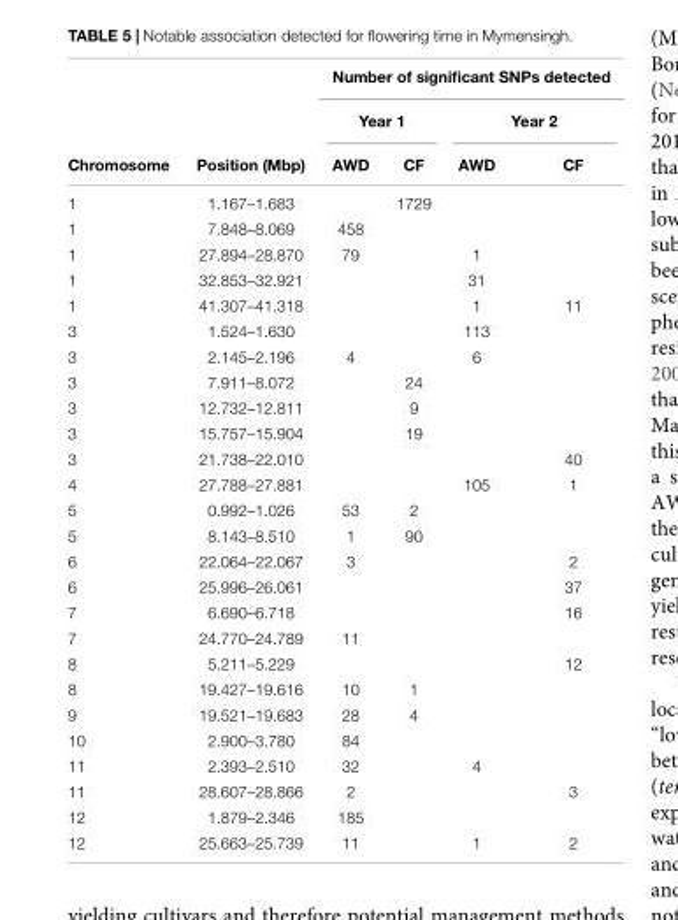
<table><thead><tr><td rowspan="3">Chromosome</td><td rowspan="3">Position (Mbp)</td><td colspan="4">Number of significant SNPs detected</td></tr><tr><td colspan="2">Year 1</td><td colspan="2">Year 2</td></tr><tr><td>AWD</td><td>CF</td><td>AWD</td><td>CF</td></tr></thead><tbody><tr><td>1</td><td>1.167–1.683</td><td></td><td>1729</td><td></td><td></td></tr><tr><td>1</td><td>7.848–8.069</td><td>458</td><td></td><td></td><td></td></tr><tr><td>1</td><td>27.894–28.870</td><td>79</td><td></td><td>1</td><td></td></tr><tr><td>1</td><td>32.853–32.921</td><td></td><td></td><td>31</td><td></td></tr><tr><td>1</td><td>41.307–41.318</td><td></td><td></td><td>1</td><td>11</td></tr><tr><td>3</td><td>1.524–1.630</td><td></td><td></td><td>113</td><td></td></tr><tr><td>3</td><td>2.145–2.196</td><td>4</td><td></td><td>6</td><td></td></tr><tr><td>3</td><td>7.911–8.072</td><td></td><td>24</td><td></td><td></td></tr><tr><td>3</td><td>12.732–12.811</td><td></td><td>9</td><td></td><td></td></tr><tr><td>3</td><td>15.757–15.904</td><td></td><td>19</td><td></td><td></td></tr><tr><td>3</td><td>21.738–22.010</td><td></td><td></td><td></td><td>40</td></tr><tr><td>4</td><td>27.788–27.881</td><td></td><td></td><td>105</td><td>1</td></tr><tr><td>5</td><td>0.992–1.026</td><td>53</td><td>2</td><td></td><td></td></tr><tr><td>5</td><td>8.143–8.510</td><td>1</td><td>90</td><td></td><td></td></tr><tr><td>6</td><td>22.064–22.067</td><td>3</td><td></td><td></td><td>2</td></tr><tr><td>6</td><td>25.996–26.061</td><td></td><td></td><td></td><td>37</td></tr><tr><td>7</td><td>6.690–6.718</td><td></td><td></td><td></td><td>16</td></tr><tr><td>7</td><td>24.770–24.789</td><td>11</td><td></td><td></td><td></td></tr><tr><td>8</td><td>5.211–5.229</td><td></td><td></td><td></td><td>12</td></tr><tr><td>8</td><td>19.427–19.616</td><td>10</td><td>1</td><td></td><td></td></tr><tr><td>9</td><td>19.521–19.683</td><td>28</td><td>4</td><td></td><td></td></tr><tr><td>10</td><td>2.900–3.780</td><td>84</td><td></td><td></td><td></td></tr><tr><td>11</td><td>2.393–2.510</td><td>32</td><td></td><td>4</td><td></td></tr><tr><td>11</td><td>28.607–28.866</td><td>2</td><td></td><td></td><td>3</td></tr><tr><td>12</td><td>1.879–2.346</td><td>185</td><td></td><td></td><td></td></tr><tr><td>12</td><td>25.663–25.739</td><td>11</td><td></td><td>1</td><td>2</td></tr></tbody></table>